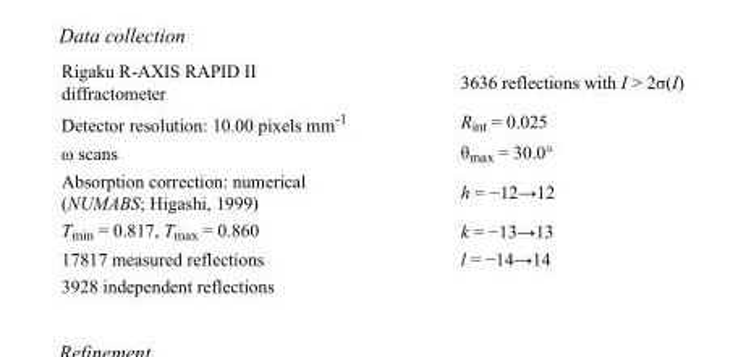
<table><tbody><tr><td>Rigaku R-AXIS RAPID II diffractometer</td><td>3636 reflections with I &gt; 2σ(I)</td></tr><tr><td>Detector resolution: 10.00 pixels mm<sup>-1</sup></td><td>R<sub>int</sub> = 0.025</td></tr><tr><td>ω scans</td><td>θ<sub>max</sub> = 30.0°</td></tr><tr><td>Absorption correction: numerical (NUMABS; Higashi, 1999)</td><td>h = −12→12</td></tr><tr><td>T<sub>min</sub> = 0.817, T<sub>max</sub> = 0.860</td><td>k = −13→13</td></tr><tr><td>17817 measured reflections</td><td>l = −14→14</td></tr><tr><td>3928 independent reflections</td><td></td></tr></tbody></table>